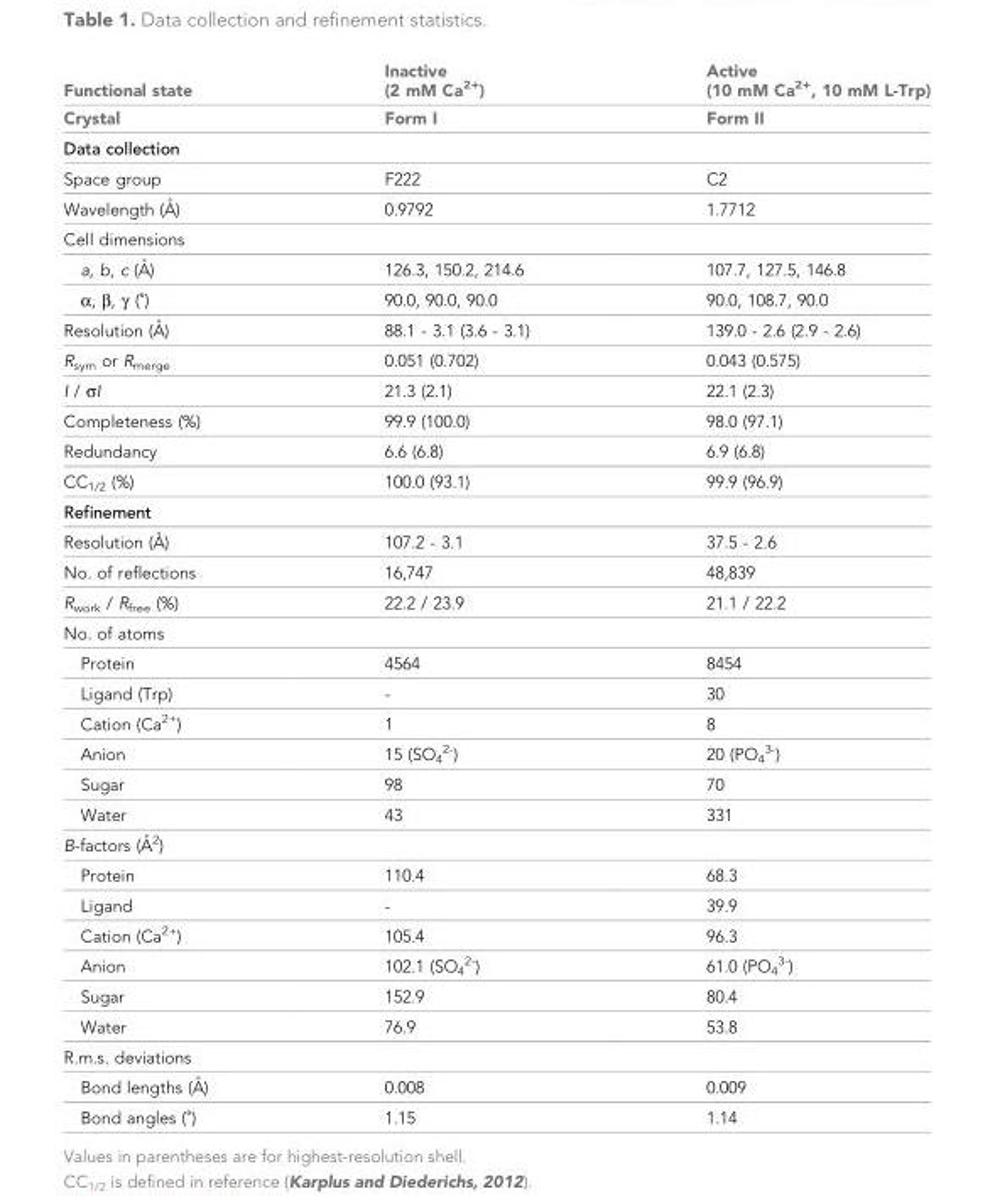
<table><thead><tr><td rowspan="2">Functional state Crystal</td><td rowspan="2">Inactive (2 mM Ca<sup>2+</sup>) Form I</td><td rowspan="2">Active (10 mM Ca<sup>2+</sup>, 10 mM L-Trp) Form II</td></tr><tr></tr></thead><tbody><tr><td colspan="3">Data collection</td></tr><tr><td>Space group</td><td>F222</td><td>C2</td></tr><tr><td>Wavelength (A˚ )</td><td>0.9792</td><td>1.7712</td></tr><tr><td colspan="3">Cell dimensions</td></tr><tr><td>a, b, c (A˚ )</td><td>126.3, 150.2, 214.6</td><td>107.7, 127.5, 146.8</td></tr><tr><td>α, β, γ (˚)</td><td>90.0, 90.0, 90.0</td><td>90.0, 108.7, 90.0</td></tr><tr><td>Resolution (A˚ )</td><td>88.1 - 3.1 (3.6 - 3.1)</td><td>139.0 - 2.6 (2.9 - 2.6)</td></tr><tr><td>R<sub>sym</sub> or R<sub>merge</sub></td><td>0.051 (0.702)</td><td>0.043 (0.575)</td></tr><tr><td>I / σI</td><td>21.3 (2.1)</td><td>22.1 (2.3)</td></tr><tr><td>Completeness (%)</td><td>99.9 (100.0)</td><td>98.0 (97.1)</td></tr><tr><td>Redundancy</td><td>6.6 (6.8)</td><td>6.9 (6.8)</td></tr><tr><td>CC<sub>1/2</sub> (%)</td><td>100.0 (93.1)</td><td>99.9 (96.9)</td></tr><tr><td colspan="3">Refinement</td></tr><tr><td>Resolution (A˚ )</td><td>107.2 - 3.1</td><td>37.5 - 2.6</td></tr><tr><td>No. of reflections</td><td>16,747</td><td>48,839</td></tr><tr><td>R<sub>work</sub> / R<sub>free</sub> (%)</td><td>22.2 / 23.9</td><td>21.1 / 22.2</td></tr><tr><td colspan="3">No. of atoms</td></tr><tr><td>Protein</td><td>4564</td><td>8454</td></tr><tr><td>Ligand (Trp)</td><td>-</td><td>30</td></tr><tr><td>Cation (Ca<sup>2+</sup>)</td><td>1</td><td>8</td></tr><tr><td>Anion</td><td>15 (SO<sub>4</sub> <sup>2-</sup>)</td><td>20 (PO<sub>4</sub> <sup>3-</sup>)</td></tr><tr><td>Sugar</td><td>98</td><td>70</td></tr><tr><td>Water</td><td>43</td><td>331</td></tr><tr><td colspan="3">B-factors (A˚ 2)</td></tr><tr><td>Protein</td><td>110.4</td><td>68.3</td></tr><tr><td>Ligand</td><td>-</td><td>39.9</td></tr><tr><td>Cation (Ca<sup>2+</sup>)</td><td>105.4</td><td>96.3</td></tr><tr><td>Anion</td><td>102.1 (SO<sub>4</sub> <sup>2-</sup>)</td><td>61.0 (PO<sub>4</sub> <sup>3-</sup>)</td></tr><tr><td>Sugar</td><td>152.9</td><td>80.4</td></tr><tr><td>Water</td><td>76.9</td><td>53.8</td></tr><tr><td colspan="3">R.m.s. deviations</td></tr><tr><td>Bond lengths (A˚ )</td><td>0.008</td><td>0.009</td></tr><tr><td>Bond angles (˚)</td><td>1.15</td><td>1.14</td></tr></tbody></table>